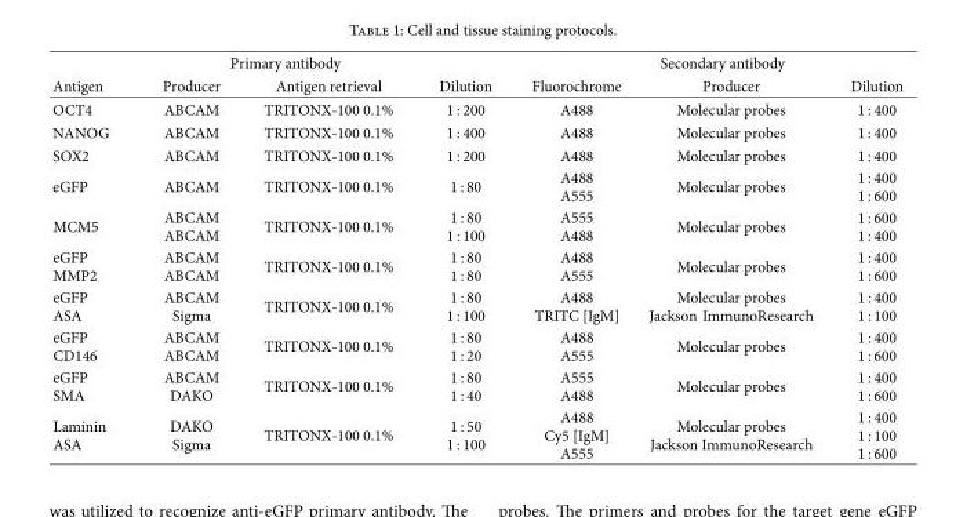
<table><thead><tr><td colspan="4">Primary antibody</td><td colspan="3">Secondary antibody</td></tr><tr><td>Antigen</td><td>Producer</td><td>Antigen retrieval</td><td>Dilution</td><td>Fluorochrome</td><td>Producer</td><td>Dilution</td></tr></thead><tbody><tr><td>OCT4</td><td>ABCAM</td><td>TRITONX-100 0.1%</td><td>1 : 200</td><td>A488</td><td>Molecular probes</td><td>1 : 400</td></tr><tr><td>NANOG</td><td>ABCAM</td><td>TRITONX-100 0.1%</td><td>1 : 400</td><td>A488</td><td>Molecular probes</td><td>1 : 400</td></tr><tr><td>SOX2</td><td>ABCAM</td><td>TRITONX-100 0.1%</td><td>1 : 200</td><td>A488</td><td>Molecular probes</td><td>1 : 400</td></tr><tr><td>eGFP</td><td>ABCAM</td><td>TRITONX-100 0.1%</td><td>1 : 80</td><td>A488 A555</td><td>Molecular probes</td><td>1 : 400 1 : 600</td></tr><tr><td>MCM5</td><td>ABCAM ABCAM</td><td>TRITONX-100 0.1%</td><td>1 : 80 1 : 100</td><td>A555 A488</td><td>Molecular probes</td><td>1 : 600 1 : 400</td></tr><tr><td>eGFP MMP2</td><td>ABCAM ABCAM</td><td>TRITONX-100 0.1%</td><td>1 : 80 1 : 80</td><td>A488 A555</td><td>Molecular probes</td><td>1 : 400 1 : 600</td></tr><tr><td>eGFP ASA</td><td>ABCAM Sigma</td><td>TRITONX-100 0.1%</td><td>1 : 80 1 : 100</td><td>A488 TRITC [IgM]</td><td>Molecular probes Jackson ImmunoResearch</td><td>1 : 400 1 : 100</td></tr><tr><td>eGFP CD146</td><td>ABCAM ABCAM</td><td>TRITONX-100 0.1%</td><td>1 : 80 1 : 20</td><td>A488 A555</td><td>Molecular probes</td><td>1 : 400 1 : 600</td></tr><tr><td>eGFP SMA</td><td>ABCAM DAKO</td><td>TRITONX-100 0.1%</td><td>1 : 80 1 : 40</td><td>A555 A488</td><td>Molecular probes</td><td>1 : 400 1 : 600</td></tr><tr><td>Laminin ASA</td><td>DAKO Sigma</td><td>TRITONX-100 0.1%</td><td>1 : 50 1 : 100</td><td>A488 Cy5 [IgM] A555</td><td>Molecular probes Jackson ImmunoResearch</td><td>1 : 400 1 : 100 1 : 600</td></tr></tbody></table>